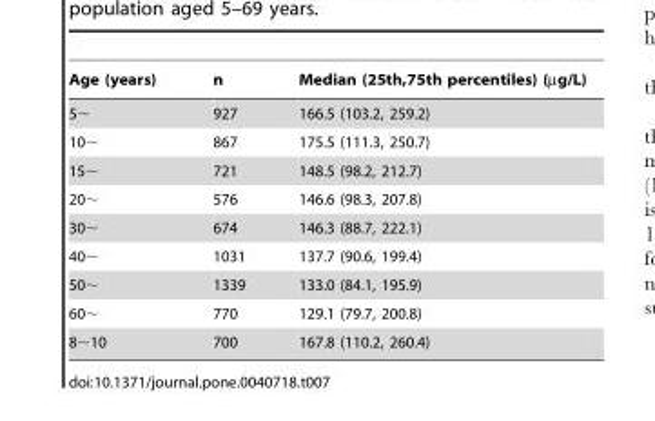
<table><thead><tr><td>Age (years)</td><td>n</td><td>Median (25th,75th percentiles) (µg/L)</td></tr></thead><tbody><tr><td>5∼</td><td>927</td><td>166.5 (103.2, 259.2)</td></tr><tr><td>10∼</td><td>867</td><td>175.5 (111.3, 250.7)</td></tr><tr><td>15∼</td><td>721</td><td>148.5 (98.2, 212.7)</td></tr><tr><td>20∼</td><td>576</td><td>146.6 (98.3, 207.8)</td></tr><tr><td>30∼</td><td>674</td><td>146.3 (88.7, 222.1)</td></tr><tr><td>40∼</td><td>1031</td><td>137.7 (90.6, 199.4)</td></tr><tr><td>50∼</td><td>1339</td><td>133.0 (84.1, 195.9)</td></tr><tr><td>60∼</td><td>770</td><td>129.1 (79.7, 200.8)</td></tr><tr><td>8∼10</td><td>700</td><td>167.8 (110.2, 260.4)</td></tr></tbody></table>